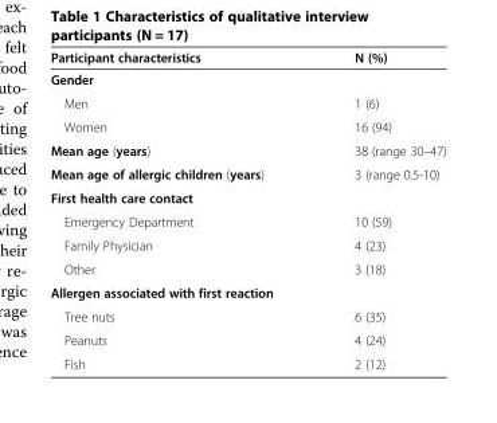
<table><thead><tr><td>Participant characteristics</td><td>N (%)</td></tr></thead><tbody><tr><td colspan="2">Gender</td></tr><tr><td>Men</td><td>1 (6)</td></tr><tr><td>Women</td><td>16 (94)</td></tr><tr><td>Mean age (years)</td><td>38 (range 30–47)</td></tr><tr><td>Mean age of allergic children (years)</td><td>3 (range 0.5-10)</td></tr><tr><td colspan="2">First health care contact</td></tr><tr><td>Emergency Department</td><td>10 (59)</td></tr><tr><td>Family Physician</td><td>4 (23)</td></tr><tr><td>Other</td><td>3 (18)</td></tr><tr><td colspan="2">Allergen associated with first reaction</td></tr><tr><td>Tree nuts</td><td>6 (35)</td></tr><tr><td>Peanuts</td><td>4 (24)</td></tr><tr><td>Fish</td><td>2 (12)</td></tr></tbody></table>